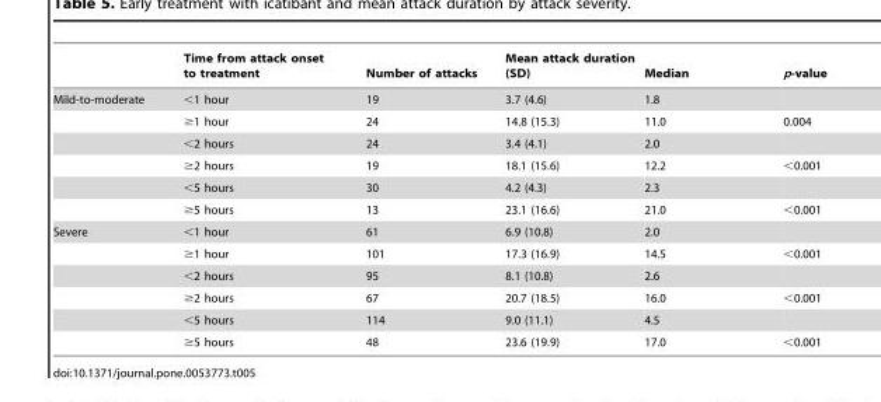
<table><thead><tr><td></td><td>Time from attack onset to treatment</td><td>Number of attacks</td><td>Mean attack duration (SD)</td><td>Median</td><td>p-value</td></tr></thead><tbody><tr><td rowspan="6">Mild-to-moderate</td><td>&lt;1 hour</td><td>19</td><td>3.7 (4.6)</td><td>1.8</td><td></td></tr><tr><td>≥1 hour</td><td>24</td><td>14.8 (15.3)</td><td>11.0</td><td>0.004</td></tr><tr><td>&lt;2 hours</td><td>24</td><td>3.4 (4.1)</td><td>2.0</td><td></td></tr><tr><td>≥2 hours</td><td>19</td><td>18.1 (15.6)</td><td>12.2</td><td>&lt;0.001</td></tr><tr><td>&lt;5 hours</td><td>30</td><td>4.2 (4.3)</td><td>2.3</td><td></td></tr><tr><td>≥5 hours</td><td>13</td><td>23.1 (16.6)</td><td>21.0</td><td>&lt;0.001</td></tr><tr><td rowspan="6">Severe</td><td>&lt;1 hour</td><td>61</td><td>6.9 (10.8)</td><td>2.0</td><td></td></tr><tr><td>≥1 hour</td><td>101</td><td>17.3 (16.9)</td><td>14.5</td><td>&lt;0.001</td></tr><tr><td>&lt;2 hours</td><td>95</td><td>8.1 (10.8)</td><td>2.6</td><td></td></tr><tr><td>≥2 hours</td><td>67</td><td>20.7 (18.5)</td><td>16.0</td><td>&lt;0.001</td></tr><tr><td>&lt;5 hours</td><td>114</td><td>9.0 (11.1)</td><td>4.5</td><td></td></tr><tr><td>≥5 hours</td><td>48</td><td>23.6 (19.9)</td><td>17.0</td><td>&lt;0.001</td></tr></tbody></table>